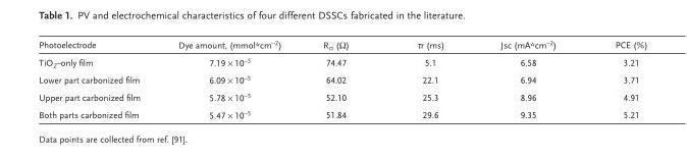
<table><thead><tr><td>Photoelectrode</td><td>Dye amount, (mmol*cm <sup>−2</sup> )</td><td>R <sub>ct</sub> (Ω)</td><td>τr (ms)</td><td>Jsc (mA*cm <sup>−2</sup> )</td><td>PCE (%)</td></tr></thead><tbody><tr><td>TiO <sub>2</sub> –only fi lm</td><td>7.19 × 10 <sup>−5</sup></td><td>74.47</td><td>5.1</td><td>6.58</td><td>3.21</td></tr><tr><td>Lower part carbonized fi lm</td><td>6.09 × 10 <sup>−5</sup></td><td>64.02</td><td>22.1</td><td>6.94</td><td>3.71</td></tr><tr><td>Upper part carbonized fi lm</td><td>5.78 × 10 <sup>−5</sup></td><td>52.10</td><td>25.3</td><td>8.96</td><td>4.91</td></tr><tr><td>Both parts carbonized fi lm</td><td>5.47 × 10 <sup>−5</sup></td><td>51.84</td><td>29.6</td><td>9.35</td><td>5.21</td></tr></tbody></table>